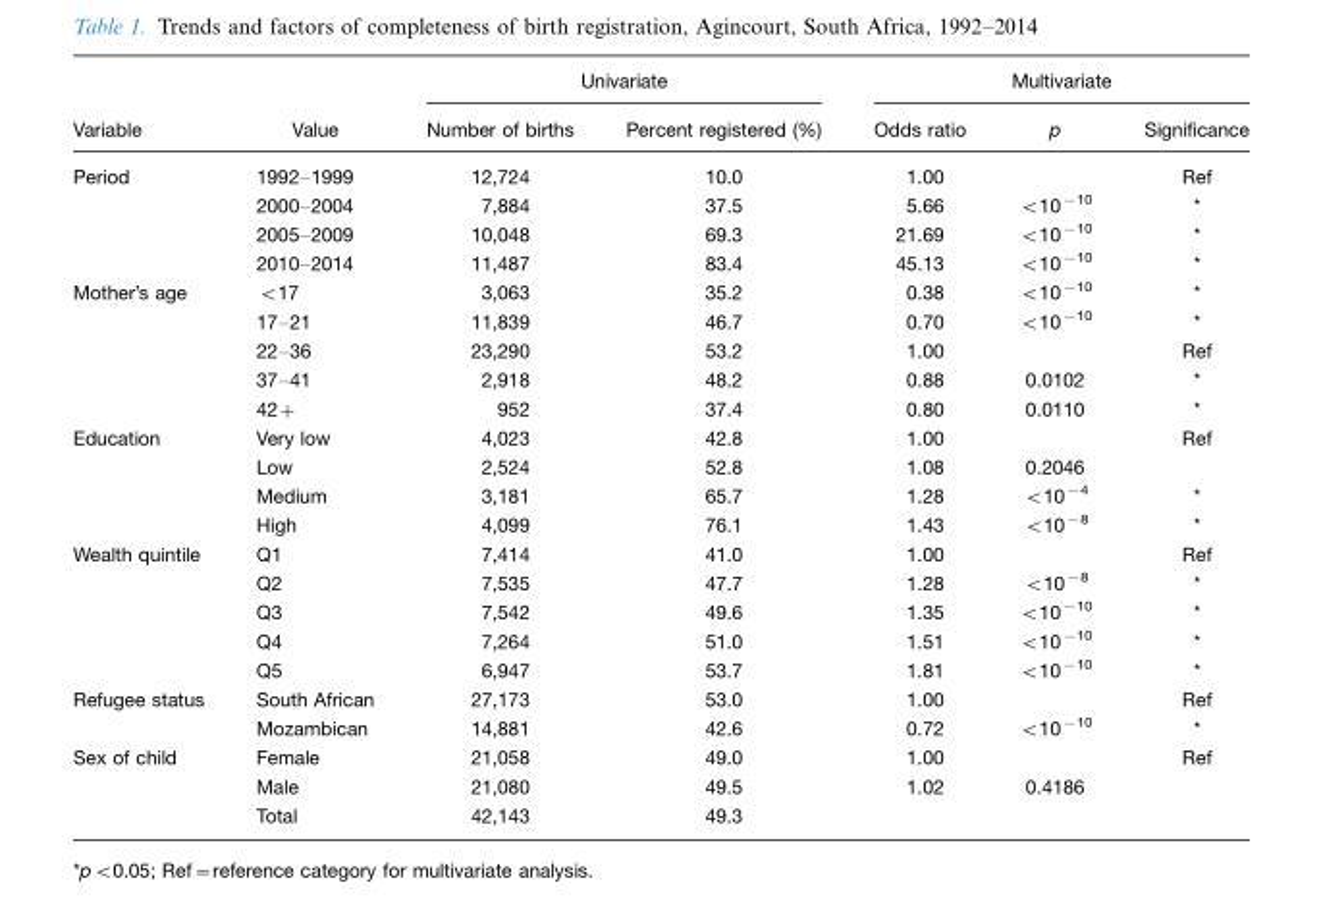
<table><thead><tr><td rowspan="2">Variable</td><td rowspan="2">Value</td><td colspan="2">Univariate</td><td colspan="3">Multivariate</td></tr><tr><td>Number of births</td><td>Percent registered (%)</td><td>Odds ratio</td><td>p</td><td>Significance</td></tr></thead><tbody><tr><td rowspan="4">Period</td><td>1992–1999</td><td>12,724</td><td>10.0</td><td>1.00</td><td></td><td>Ref</td></tr><tr><td>2000–2004</td><td>7,884</td><td>37.5</td><td>5.66</td><td>&lt;10<sup>−10</sup></td><td>*</td></tr><tr><td>2005–2009</td><td>10,048</td><td>69.3</td><td>21.69</td><td>&lt;10<sup>−10</sup></td><td>*</td></tr><tr><td>2010–2014</td><td>11,487</td><td>83.4</td><td>45.13</td><td>&lt;10<sup>−10</sup></td><td>*</td></tr><tr><td rowspan="5">Mother’s age</td><td>&lt;17</td><td>3,063</td><td>35.2</td><td>0.38</td><td>&lt;10<sup>−10</sup></td><td>*</td></tr><tr><td>17–21</td><td>11,839</td><td>46.7</td><td>0.70</td><td>&lt;10<sup>−10</sup></td><td>*</td></tr><tr><td>22–36</td><td>23,290</td><td>53.2</td><td>1.00</td><td></td><td>Ref</td></tr><tr><td>37–41</td><td>2,918</td><td>48.2</td><td>0.88</td><td>0.0102</td><td>*</td></tr><tr><td>42+</td><td>952</td><td>37.4</td><td>0.80</td><td>0.0110</td><td>*</td></tr><tr><td rowspan="4">Education</td><td>Very low</td><td>4,023</td><td>42.8</td><td>1.00</td><td></td><td>Ref</td></tr><tr><td>Low</td><td>2,524</td><td>52.8</td><td>1.08</td><td>0.2046</td><td></td></tr><tr><td>Medium</td><td>3,181</td><td>65.7</td><td>1.28</td><td>&lt;10<sup>−4</sup></td><td>*</td></tr><tr><td>High</td><td>4,099</td><td>76.1</td><td>1.43</td><td>&lt;10<sup>−8</sup></td><td>*</td></tr><tr><td rowspan="5">Wealth quintile</td><td>Q1</td><td>7,414</td><td>41.0</td><td>1.00</td><td></td><td>Ref</td></tr><tr><td>Q2</td><td>7,535</td><td>47.7</td><td>1.28</td><td>&lt;10<sup>−8</sup></td><td>*</td></tr><tr><td>Q3</td><td>7,542</td><td>49.6</td><td>1.35</td><td>&lt;10<sup>−10</sup></td><td>*</td></tr><tr><td>Q4</td><td>7,264</td><td>51.0</td><td>1.51</td><td>&lt;10<sup>−10</sup></td><td>*</td></tr><tr><td>Q5</td><td>6,947</td><td>53.7</td><td>1.81</td><td>&lt;10<sup>−10</sup></td><td>*</td></tr><tr><td rowspan="2">Refugee status</td><td>South African</td><td>27,173</td><td>53.0</td><td>1.00</td><td></td><td>Ref</td></tr><tr><td>Mozambican</td><td>14,881</td><td>42.6</td><td>0.72</td><td>&lt;10<sup>−10</sup></td><td>*</td></tr><tr><td rowspan="3">Sex of child</td><td>Female</td><td>21,058</td><td>49.0</td><td>1.00</td><td></td><td>Ref</td></tr><tr><td>Male</td><td>21,080</td><td>49.5</td><td>1.02</td><td>0.4186</td><td></td></tr><tr><td>Total</td><td>42,143</td><td>49.3</td><td></td><td></td><td></td></tr></tbody></table>